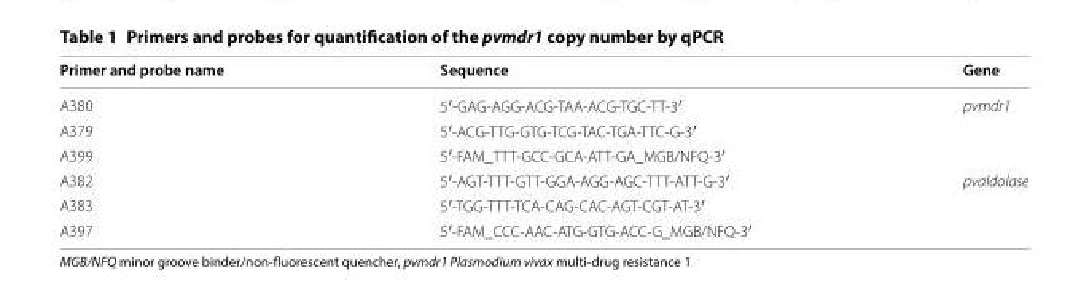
<table><thead><tr><td>Primer and probe name</td><td>Sequence</td><td>Gene</td></tr></thead><tbody><tr><td>A380</td><td>5′-GAG-AGG-ACG-TAA-ACG-TGC-TT-3′</td><td rowspan="3">pvmdr1</td></tr><tr><td>A379</td><td>5′-ACG-TTG-GTG-TCG-TAC-TGA-TTC-G-3′</td></tr><tr><td>A399</td><td>5′-FAM_TTT-GCC-GCA-ATT-GA_MGB/NFQ-3′</td></tr><tr><td>A382</td><td>5′-AGT-TTT-GTT-GGA-AGG-AGC-TTT-ATT-G-3′</td><td rowspan="3">pvaldolase</td></tr><tr><td>A383</td><td>5′-TGG-TTT-TCA-CAG-CAC-AGT-CGT-AT-3′</td></tr><tr><td>A397</td><td>5′-FAM_CCC-AAC-ATG-GTG-ACC-G_MGB/NFQ-3′</td></tr></tbody></table>